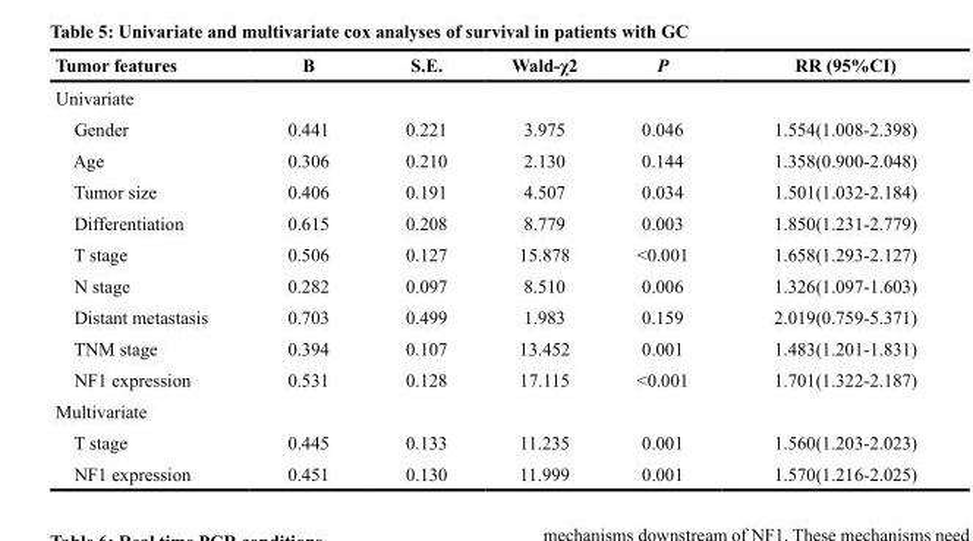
<table><thead><tr><td>Tumor features</td><td>B</td><td>S.E.</td><td>Wald-χ2</td><td>P</td><td>RR (95%CI)</td></tr></thead><tbody><tr><td colspan="6">Univariate</td></tr><tr><td>Gender</td><td>0.441</td><td>0.221</td><td>3.975</td><td>0.046</td><td>1.554(1.008-2.398)</td></tr><tr><td>Age</td><td>0.306</td><td>0.210</td><td>2.130</td><td>0.144</td><td>1.358(0.900-2.048)</td></tr><tr><td>Tumor size</td><td>0.406</td><td>0.191</td><td>4.507</td><td>0.034</td><td>1.501(1.032-2.184)</td></tr><tr><td>Differentiation</td><td>0.615</td><td>0.208</td><td>8.779</td><td>0.003</td><td>1.850(1.231-2.779)</td></tr><tr><td>T stage</td><td>0.506</td><td>0.127</td><td>15.878</td><td>&lt;0.001</td><td>1.658(1.293-2.127)</td></tr><tr><td>N stage</td><td>0.282</td><td>0.097</td><td>8.510</td><td>0.006</td><td>1.326(1.097-1.603)</td></tr><tr><td>Distant metastasis</td><td>0.703</td><td>0.499</td><td>1.983</td><td>0.159</td><td>2.019(0.759-5.371)</td></tr><tr><td>TNM stage</td><td>0.394</td><td>0.107</td><td>13.452</td><td>0.001</td><td>1.483(1.201-1.831)</td></tr><tr><td>NF1 expression</td><td>0.531</td><td>0.128</td><td>17.115</td><td>&lt;0.001</td><td>1.701(1.322-2.187)</td></tr><tr><td colspan="6">Multivariate</td></tr><tr><td>T stage</td><td>0.445</td><td>0.133</td><td>11.235</td><td>0.001</td><td>1.560(1.203-2.023)</td></tr><tr><td>NF1 expression</td><td>0.451</td><td>0.130</td><td>11.999</td><td>0.001</td><td>1.570(1.216-2.025)</td></tr></tbody></table>